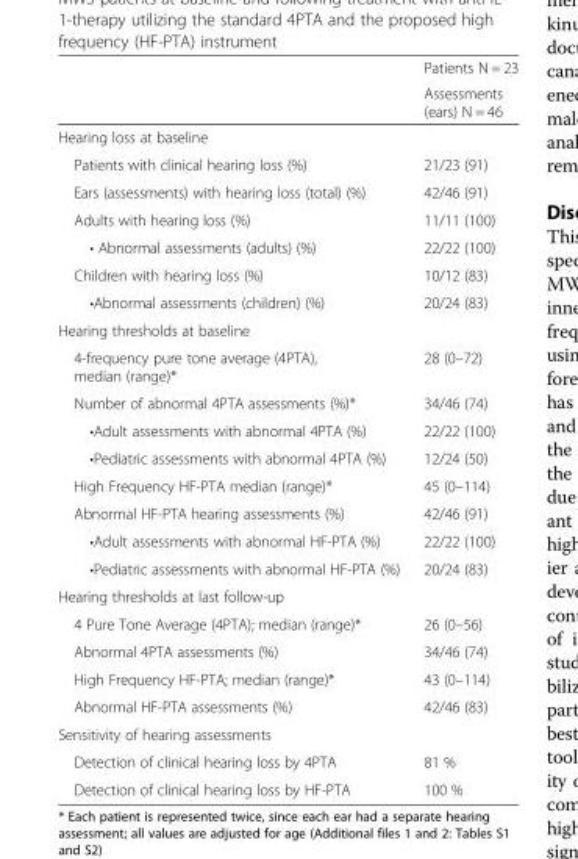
<table><thead><tr><td rowspan="2"></td><td rowspan="2">Patients N = 23 Assessments (ears) N = 46</td></tr><tr></tr></thead><tbody><tr><td colspan="2">Hearing loss at baseline</td></tr><tr><td>Patients with clinical hearing loss (%)</td><td>21/23 (91)</td></tr><tr><td>Ears (assessments) with hearing loss (total) (%)</td><td>42/46 (91)</td></tr><tr><td>Adults with hearing loss (%)</td><td>11/11 (100)</td></tr><tr><td>• Abnormal assessments (adults) (%)</td><td>22/22 (100)</td></tr><tr><td>Children with hearing loss (%)</td><td>10/12 (83)</td></tr><tr><td>•Abnormal assessments (children) (%)</td><td>20/24 (83)</td></tr><tr><td colspan="2">Hearing thresholds at baseline</td></tr><tr><td>4-frequency pure tone average (4PTA), median (range)*</td><td>28 (0–72)</td></tr><tr><td>Number of abnormal 4PTA assessments (%)*</td><td>34/46 (74)</td></tr><tr><td>•Adult assessments with abnormal 4PTA (%)</td><td>22/22 (100)</td></tr><tr><td>•Pediatric assessments with abnormal 4PTA (%)</td><td>12/24 (50)</td></tr><tr><td>High Frequency HF-PTA median (range)*</td><td>45 (0–114)</td></tr><tr><td>Abnormal HF-PTA hearing assessments (%)</td><td>42/46 (91)</td></tr><tr><td>•Adult assessments with abnormal HF-PTA (%)</td><td>22/22 (100)</td></tr><tr><td>•Pediatric assessments with abnormal HF-PTA (%)</td><td>20/24 (83)</td></tr><tr><td colspan="2">Hearing thresholds at last follow-up</td></tr><tr><td>4 Pure Tone Average (4PTA); median (range)*</td><td>26 (0–56)</td></tr><tr><td>Abnormal 4PTA assessments (%)</td><td>34/46 (74)</td></tr><tr><td>High Frequency HF-PTA; median (range)*</td><td>43 (0–114)</td></tr><tr><td>Abnormal HF-PTA assessments (%)</td><td>42/46 (83)</td></tr><tr><td colspan="2">Sensitivity of hearing assessments</td></tr><tr><td>Detection of clinical hearing loss by 4PTA</td><td>81 %</td></tr><tr><td>Detection of clinical hearing loss by HF-PTA</td><td>100 %</td></tr></tbody></table>